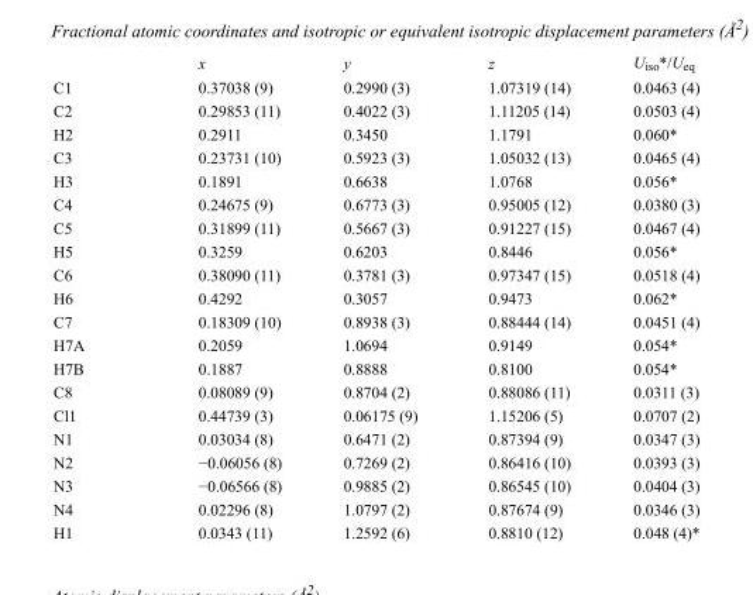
<table><thead><tr><td></td><td>x</td><td>y</td><td>z</td><td>U<sub>iso</sub>*/U<sub>eq</sub></td></tr></thead><tbody><tr><td>C1</td><td>0.37038 (9)</td><td>0.2990 (3)</td><td>1.07319 (14)</td><td>0.0463 (4)</td></tr><tr><td>C2</td><td>0.29853 (11)</td><td>0.4022 (3)</td><td>1.11205 (14)</td><td>0.0503 (4)</td></tr><tr><td>H2</td><td>0.2911</td><td>0.3450</td><td>1.1791</td><td>0.060*</td></tr><tr><td>C3</td><td>0.23731 (10)</td><td>0.5923 (3)</td><td>1.05032 (13)</td><td>0.0465 (4)</td></tr><tr><td>H3</td><td>0.1891</td><td>0.6638</td><td>1.0768</td><td>0.056*</td></tr><tr><td>C4</td><td>0.24675 (9)</td><td>0.6773 (3)</td><td>0.95005 (12)</td><td>0.0380 (3)</td></tr><tr><td>C5</td><td>0.31899 (11)</td><td>0.5667 (3)</td><td>0.91227 (15)</td><td>0.0467 (4)</td></tr><tr><td>H5</td><td>0.3259</td><td>0.6203</td><td>0.8446</td><td>0.056*</td></tr><tr><td>C6</td><td>0.38090 (11)</td><td>0.3781 (3)</td><td>0.97347 (15)</td><td>0.0518 (4)</td></tr><tr><td>H6</td><td>0.4292</td><td>0.3057</td><td>0.9473</td><td>0.062*</td></tr><tr><td>C7</td><td>0.18309 (10)</td><td>0.8938 (3)</td><td>0.88444 (14)</td><td>0.0451 (4)</td></tr><tr><td>H7A</td><td>0.2059</td><td>1.0694</td><td>0.9149</td><td>0.054*</td></tr><tr><td>H7B</td><td>0.1887</td><td>0.8888</td><td>0.8100</td><td>0.054*</td></tr><tr><td>C8</td><td>0.08089 (9)</td><td>0.8704 (2)</td><td>0.88086 (11)</td><td>0.0311 (3)</td></tr><tr><td>Cl1</td><td>0.44739 (3)</td><td>0.06175 (9)</td><td>1.15206 (5)</td><td>0.0707 (2)</td></tr><tr><td>N1</td><td>0.03034 (8)</td><td>0.6471 (2)</td><td>0.87394 (9)</td><td>0.0347 (3)</td></tr><tr><td>N2</td><td>−0.06056 (8)</td><td>0.7269 (2)</td><td>0.86416 (10)</td><td>0.0393 (3)</td></tr><tr><td>N3</td><td>−0.06566 (8)</td><td>0.9885 (2)</td><td>0.86545 (10)</td><td>0.0404 (3)</td></tr><tr><td>N4</td><td>0.02296 (8)</td><td>1.0797 (2)</td><td>0.87674 (9)</td><td>0.0346 (3)</td></tr><tr><td>H1</td><td>0.0343 (11)</td><td>1.2592 (6)</td><td>0.8810 (12)</td><td>0.048 (4)*</td></tr></tbody></table>